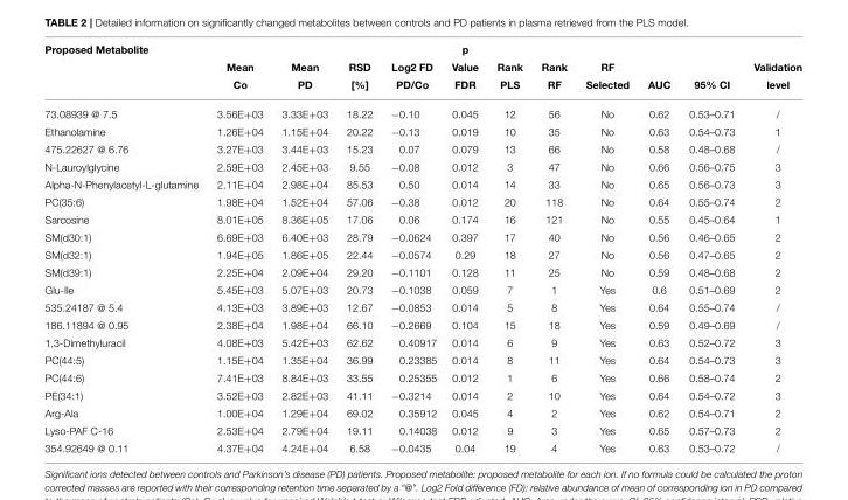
<table><thead><tr><td rowspan="3">Proposed Metabolite</td><td rowspan="3">Mean Co</td><td rowspan="3">Mean PD</td><td rowspan="3">RSD [%]</td><td rowspan="3">Log2 FD PD/Co</td><td rowspan="3">p Value FDR</td><td rowspan="3">Rank PLS</td><td rowspan="3">Rank RF</td><td rowspan="3">RF Selected</td><td rowspan="3">AUC</td><td rowspan="3">95% CI</td><td rowspan="3">Validation level</td></tr><tr></tr><tr></tr></thead><tbody><tr><td>73.08939 @ 7.5</td><td>3.56E+03</td><td>3.33E+03</td><td>18.22</td><td>−0.10</td><td>0.045</td><td>12</td><td>56</td><td>No</td><td>0.62</td><td>0.53–0.71</td><td>/</td></tr><tr><td>Ethanolamine</td><td>1.26E+04</td><td>1.15E+04</td><td>20.22</td><td>−0.13</td><td>0.019</td><td>10</td><td>35</td><td>No</td><td>0.63</td><td>0.54–0.73</td><td>1</td></tr><tr><td>475.22627 @ 6.76</td><td>3.27E+03</td><td>3.44E+03</td><td>15.23</td><td>0.07</td><td>0.079</td><td>13</td><td>66</td><td>No</td><td>0.58</td><td>0.48–0.68</td><td>/</td></tr><tr><td>N-Lauroylglycine</td><td>2.59E+03</td><td>2.45E+03</td><td>9.55</td><td>−0.08</td><td>0.012</td><td>3</td><td>47</td><td>No</td><td>0.66</td><td>0.56–0.75</td><td>3</td></tr><tr><td>Alpha-N-Phenylacetyl-L-glutamine</td><td>2.11E+04</td><td>2.98E+04</td><td>85.53</td><td>0.50</td><td>0.014</td><td>14</td><td>33</td><td>No</td><td>0.65</td><td>0.56–0.73</td><td>3</td></tr><tr><td>PC(35:6)</td><td>1.98E+04</td><td>1.52E+04</td><td>57.06</td><td>−0.38</td><td>0.012</td><td>20</td><td>118</td><td>No</td><td>0.64</td><td>0.55–0.74</td><td>2</td></tr><tr><td>Sarcosine</td><td>8.01E+05</td><td>8.36E+05</td><td>17.06</td><td>0.06</td><td>0.174</td><td>16</td><td>121</td><td>No</td><td>0.55</td><td>0.45–0.64</td><td>1</td></tr><tr><td>SM(d30:1)</td><td>6.69E+03</td><td>6.40E+03</td><td>28.79</td><td>−0.0624</td><td>0.397</td><td>17</td><td>40</td><td>No</td><td>0.56</td><td>0.46–0.65</td><td>2</td></tr><tr><td>SM(d32:1)</td><td>1.94E+05</td><td>1.86E+05</td><td>22.44</td><td>−0.0574</td><td>0.29</td><td>18</td><td>27</td><td>No</td><td>0.56</td><td>0.47–0.65</td><td>2</td></tr><tr><td>SM(d39:1)</td><td>2.25E+04</td><td>2.09E+04</td><td>29.20</td><td>−0.1101</td><td>0.128</td><td>11</td><td>25</td><td>No</td><td>0.59</td><td>0.48–0.68</td><td>2</td></tr><tr><td>Glu-Ile</td><td>5.45E+03</td><td>5.07E+03</td><td>20.73</td><td>−0.1038</td><td>0.059</td><td>7</td><td>1</td><td>Yes</td><td>0.6</td><td>0.51–0.69</td><td>2</td></tr><tr><td>535.24187 @ 5.4</td><td>4.13E+03</td><td>3.89E+03</td><td>12.67</td><td>−0.0853</td><td>0.014</td><td>5</td><td>8</td><td>Yes</td><td>0.64</td><td>0.55–0.74</td><td>/</td></tr><tr><td>186.11894 @ 0.95</td><td>2.38E+04</td><td>1.98E+04</td><td>66.10</td><td>−0.2669</td><td>0.104</td><td>15</td><td>18</td><td>Yes</td><td>0.59</td><td>0.49–0.69</td><td>/</td></tr><tr><td>1,3-Dimethyluracil</td><td>4.08E+03</td><td>5.42E+03</td><td>62.62</td><td>0.40917</td><td>0.014</td><td>6</td><td>9</td><td>Yes</td><td>0.63</td><td>0.52–0.72</td><td>3</td></tr><tr><td>PC(44:5)</td><td>1.15E+04</td><td>1.35E+04</td><td>36.99</td><td>0.23385</td><td>0.014</td><td>8</td><td>11</td><td>Yes</td><td>0.64</td><td>0.54–0.73</td><td>3</td></tr><tr><td>PC(44:6)</td><td>7.41E+03</td><td>8.84E+03</td><td>33.55</td><td>0.25355</td><td>0.012</td><td>1</td><td>6</td><td>Yes</td><td>0.66</td><td>0.58–0.74</td><td>2</td></tr><tr><td>PE(34:1)</td><td>3.52E+03</td><td>2.82E+03</td><td>41.11</td><td>−0.3214</td><td>0.014</td><td>2</td><td>10</td><td>Yes</td><td>0.64</td><td>0.54–0.72</td><td>3</td></tr><tr><td>Arg-Ala</td><td>1.00E+04</td><td>1.29E+04</td><td>69.02</td><td>0.35912</td><td>0.045</td><td>4</td><td>2</td><td>Yes</td><td>0.62</td><td>0.54–0.71</td><td>2</td></tr><tr><td>Lyso-PAF C-16</td><td>2.53E+04</td><td>2.79E+04</td><td>19.11</td><td>0.14038</td><td>0.012</td><td>9</td><td>3</td><td>Yes</td><td>0.65</td><td>0.57–0.73</td><td>2</td></tr><tr><td>354.92649 @ 0.11</td><td>4.37E+04</td><td>4.24E+04</td><td>6.58</td><td>−0.0435</td><td>0.04</td><td>19</td><td>4</td><td>Yes</td><td>0.63</td><td>0.53–0.72</td><td>/</td></tr></tbody></table>